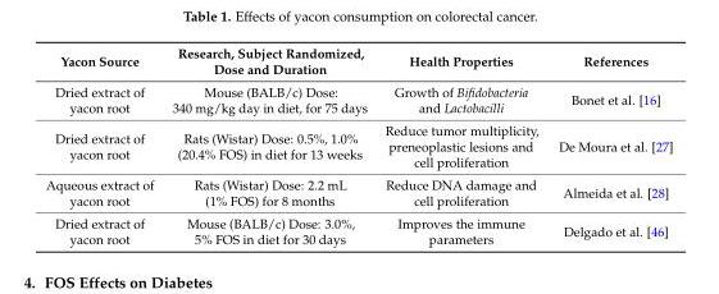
<table><thead><tr><td>Yacon Source</td><td>Research, Subject Randomized, Dose and Duration</td><td>Health Properties</td><td>References</td></tr></thead><tbody><tr><td>Dried extract of yacon root</td><td>Mouse (BALB/c) Dose: 340 mg/kg day in diet, for 75 days</td><td>Growth of Bifidobacteria and Lactobacilli</td><td>Bonet et al. [16]</td></tr><tr><td>Dried extract of yacon root</td><td>Rats (Wistar) Dose: 0.5%, 1.0% (20.4% FOS) in diet for 13 weeks</td><td>Reduce tumor multiplicity, preneoplastic lesions and cell proliferation</td><td>De Moura et al. [27]</td></tr><tr><td>Aqueous extract of yacon root</td><td>Rats (Wistar) Dose: 2.2 mL (1% FOS) for 8 months</td><td>Reduce DNA damage and cell proliferation</td><td>Almeida et al. [28]</td></tr><tr><td>Dried extract of yacon root</td><td>Mouse (BALB/c) Dose: 3.0%, 5% FOS in diet for 30 days</td><td>Improves the immune parameters</td><td>Delgado et al. [46]</td></tr></tbody></table>